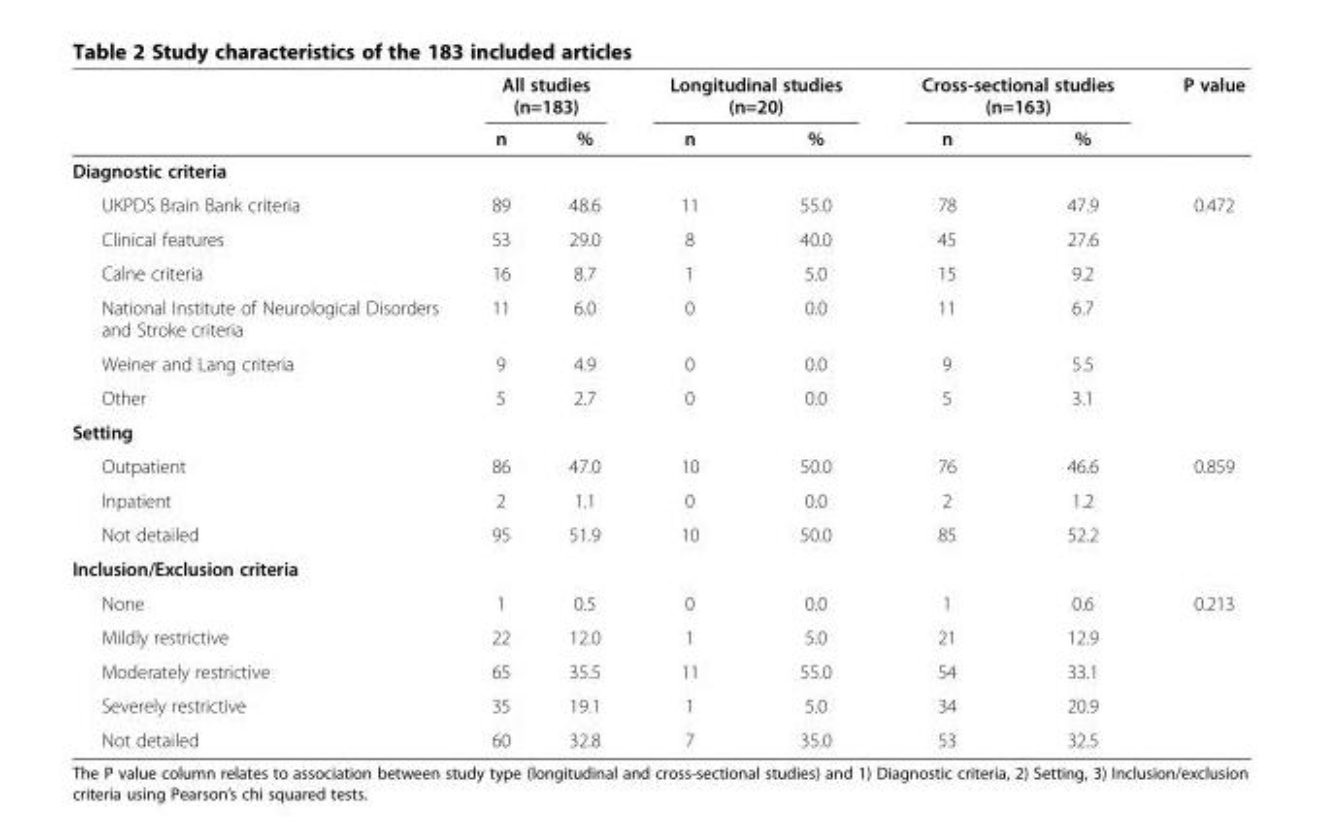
<table><thead><tr><td rowspan="2"></td><td colspan="2">All studies (n=183)</td><td colspan="2">Longitudinal studies (n=20)</td><td colspan="2">Cross-sectional studies (n=163)</td><td rowspan="2">P value</td></tr><tr><td>n</td><td>%</td><td>n</td><td>%</td><td>n</td><td>%</td></tr></thead><tbody><tr><td colspan="8">Diagnostic criteria</td></tr><tr><td>UKPDS Brain Bank criteria</td><td>89</td><td>48.6</td><td>11</td><td>55.0</td><td>78</td><td>47.9</td><td rowspan="6">0.472</td></tr><tr><td>Clinical features</td><td>53</td><td>29.0</td><td>8</td><td>40.0</td><td>45</td><td>27.6</td></tr><tr><td>Calne criteria</td><td>16</td><td>8.7</td><td>1</td><td>5.0</td><td>15</td><td>9.2</td></tr><tr><td>National Institute of Neurological Disorders and Stroke criteria</td><td>11</td><td>6.0</td><td>0</td><td>0.0</td><td>11</td><td>6.7</td></tr><tr><td>Weiner and Lang criteria</td><td>9</td><td>4.9</td><td>0</td><td>0.0</td><td>9</td><td>5.5</td></tr><tr><td>Other</td><td>5</td><td>2.7</td><td>0</td><td>0.0</td><td>5</td><td>3.1</td></tr><tr><td colspan="8">Setting</td></tr><tr><td>Outpatient</td><td>86</td><td>47.0</td><td>10</td><td>50.0</td><td>76</td><td>46.6</td><td rowspan="3">0.859</td></tr><tr><td>Inpatient</td><td>2</td><td>1.1</td><td>0</td><td>0.0</td><td>2</td><td>1.2</td></tr><tr><td>Not detailed</td><td>95</td><td>51.9</td><td>10</td><td>50.0</td><td>85</td><td>52.2</td></tr><tr><td colspan="8">Inclusion/Exclusion criteria</td></tr><tr><td>None</td><td>1</td><td>0.5</td><td>0</td><td>0.0</td><td>1</td><td>0.6</td><td rowspan="4">0.213</td></tr><tr><td>Mildly restrictive</td><td>22</td><td>12.0</td><td>1</td><td>5.0</td><td>21</td><td>12.9</td></tr><tr><td>Moderately restrictive</td><td>65</td><td>35.5</td><td>11</td><td>55.0</td><td>54</td><td>33.1</td></tr><tr><td>Severely restrictive</td><td>35</td><td>19.1</td><td>1</td><td>5.0</td><td>34</td><td>20.9</td></tr><tr><td>Not detailed</td><td>60</td><td>32.8</td><td>7</td><td>35.0</td><td>53</td><td>32.5</td><td></td></tr></tbody></table>